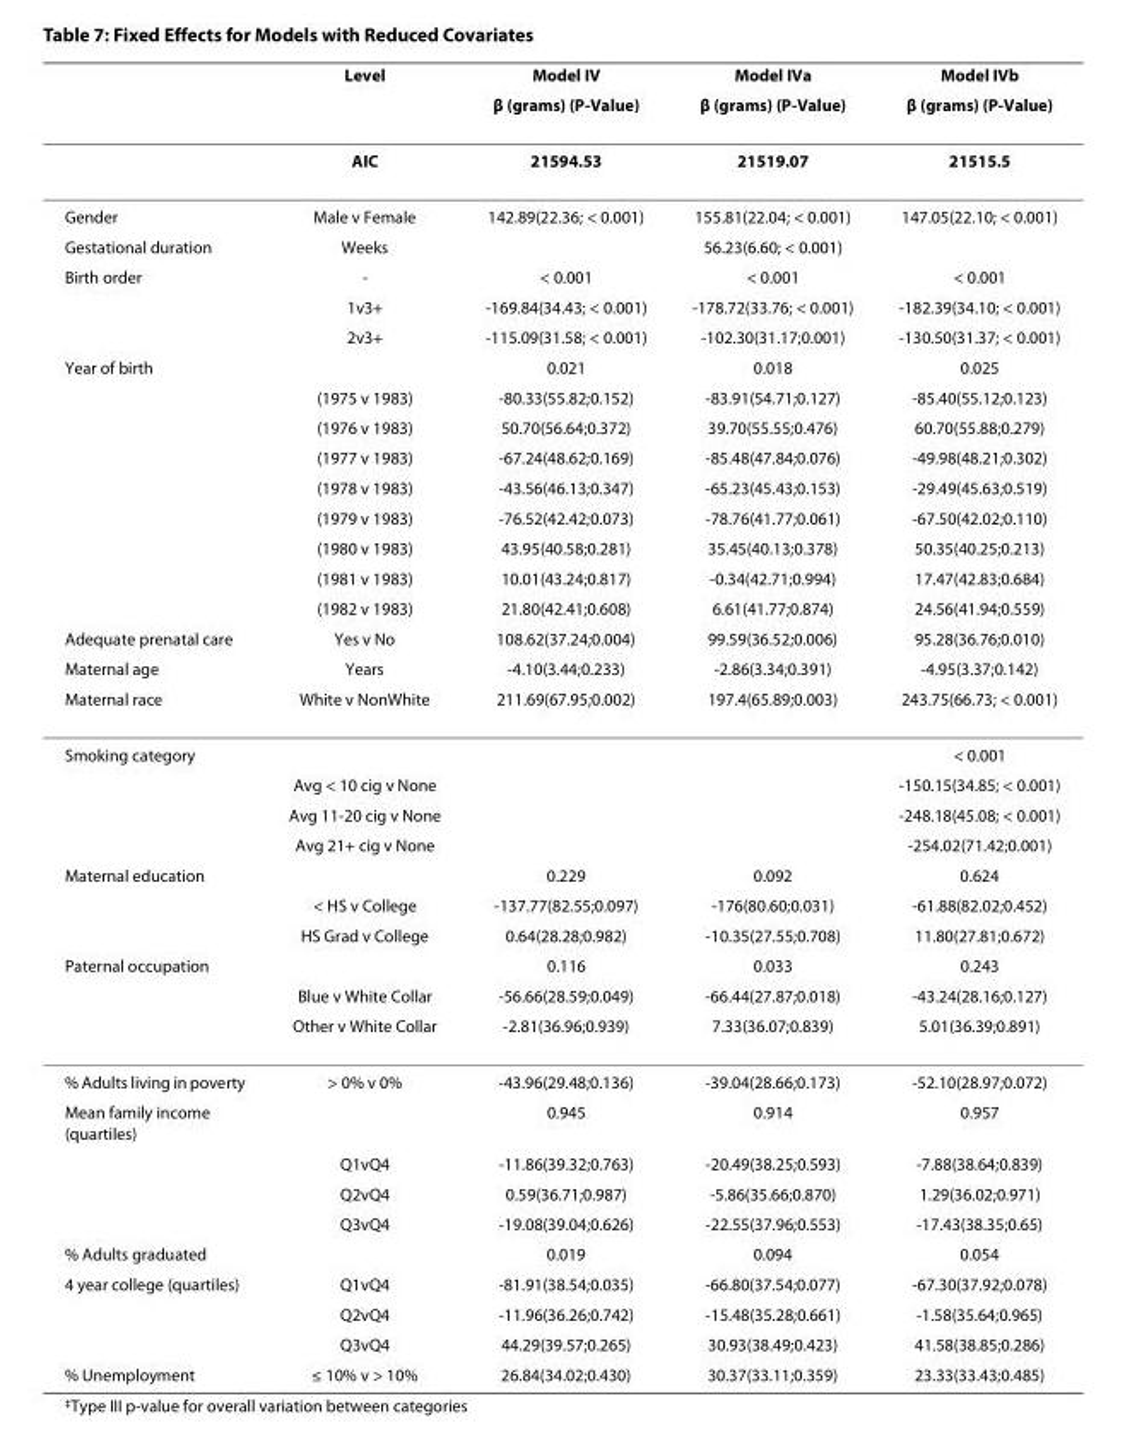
<table><thead><tr><td rowspan="2"></td><td rowspan="2">Level</td><td rowspan="2">Model IV β (grams) (P-Value)</td><td rowspan="2">Model IVa β (grams) (P-Value)</td><td rowspan="2">Model IVb β (grams) (P-Value)</td></tr><tr></tr></thead><tbody><tr><td></td><td>AIC</td><td>21594.53</td><td>21519.07</td><td>21515.5</td></tr><tr><td>Gender</td><td>Male v Female</td><td>142.89(22.36; &lt; 0.001)</td><td>155.81(22.04; &lt; 0.001)</td><td>147.05(22.10; &lt; 0.001)</td></tr><tr><td>Gestational duration</td><td>Weeks</td><td></td><td>56.23(6.60; &lt; 0.001)</td><td></td></tr><tr><td rowspan="3">Birth order</td><td>-</td><td>&lt; 0.001</td><td>&lt; 0.001</td><td>&lt; 0.001</td></tr><tr><td>1v3+</td><td>-169.84(34.43; &lt; 0.001)</td><td>-178.72(33.76; &lt; 0.001)</td><td>-182.39(34.10; &lt; 0.001)</td></tr><tr><td>2v3+</td><td>-115.09(31.58; &lt; 0.001)</td><td>-102.30(31.17;0.001)</td><td>-130.50(31.37; &lt; 0.001)</td></tr><tr><td rowspan="9">Year of birth</td><td></td><td>0.021</td><td>0.018</td><td>0.025</td></tr><tr><td>(1975 v 1983)</td><td>-80.33(55.82;0.152)</td><td>-83.91(54.71;0.127)</td><td>-85.40(55.12;0.123)</td></tr><tr><td>(1976 v 1983)</td><td>50.70(56.64;0.372)</td><td>39.70(55.55;0.476)</td><td>60.70(55.88;0.279)</td></tr><tr><td>(1977 v 1983)</td><td>-67.24(48.62;0.169)</td><td>-85.48(47.84;0.076)</td><td>-49.98(48.21;0.302)</td></tr><tr><td>(1978 v 1983)</td><td>-43.56(46.13;0.347)</td><td>-65.23(45.43;0.153)</td><td>-29.49(45.63;0.519)</td></tr><tr><td>(1979 v 1983)</td><td>-76.52(42.42;0.073)</td><td>-78.76(41.77;0.061)</td><td>-67.50(42.02;0.110)</td></tr><tr><td>(1980 v 1983)</td><td>43.95(40.58;0.281)</td><td>35.45(40.13;0.378)</td><td>50.35(40.25;0.213)</td></tr><tr><td>(1981 v 1983)</td><td>10.01(43.24;0.817)</td><td>-0.34(42.71;0.994)</td><td>17.47(42.83;0.684)</td></tr><tr><td>(1982 v 1983)</td><td>21.80(42.41;0.608)</td><td>6.61(41.77;0.874)</td><td>24.56(41.94;0.559)</td></tr><tr><td>Adequate prenatal care</td><td>Yes v No</td><td>108.62(37.24;0.004)</td><td>99.59(36.52;0.006)</td><td>95.28(36.76;0.010)</td></tr><tr><td>Maternal age</td><td>Years</td><td>-4.10(3.44;0.233)</td><td>-2.86(3.34;0.391)</td><td>-4.95(3.37;0.142)</td></tr><tr><td>Maternal race</td><td>White v NonWhite</td><td>211.69(67.95;0.002)</td><td>197.4(65.89;0.003)</td><td>243.75(66.73; &lt; 0.001)</td></tr><tr><td rowspan="4">Smoking category</td><td></td><td></td><td></td><td>&lt; 0.001</td></tr><tr><td>Avg &lt; 10 cig v None</td><td></td><td></td><td>-150.15(34.85; &lt; 0.001)</td></tr><tr><td>Avg 11-20 cig v None</td><td></td><td></td><td>-248.18(45.08; &lt; 0.001)</td></tr><tr><td>Avg 21+ cig v None</td><td></td><td></td><td>-254.02(71.42;0.001)</td></tr><tr><td rowspan="3">Maternal education</td><td></td><td>0.229</td><td>0.092</td><td>0.624</td></tr><tr><td>&lt; HS v College</td><td>-137.77(82.55;0.097)</td><td>-176(80.60;0.031)</td><td>-61.88(82.02;0.452)</td></tr><tr><td>HS Grad v College</td><td>0.64(28.28;0.982)</td><td>-10.35(27.55;0.708)</td><td>11.80(27.81;0.672)</td></tr><tr><td rowspan="3">Paternal occupation</td><td></td><td>0.116</td><td>0.033</td><td>0.243</td></tr><tr><td>Blue v White Collar</td><td>-56.66(28.59;0.049)</td><td>-66.44(27.87;0.018)</td><td>-43.24(28.16;0.127)</td></tr><tr><td>Other v White Collar</td><td>-2.81(36.96;0.939)</td><td>7.33(36.07;0.839)</td><td>5.01(36.39;0.891)</td></tr><tr><td>% Adults living in poverty</td><td>&gt; 0% v 0%</td><td>-43.96(29.48;0.136)</td><td>-39.04(28.66;0.173)</td><td>-52.10(28.97;0.072)</td></tr><tr><td rowspan="4">Mean family income (quartiles)</td><td></td><td>0.945</td><td>0.914</td><td>0.957</td></tr><tr><td>Q1vQ4</td><td>-11.86(39.32;0.763)</td><td>-20.49(38.25;0.593)</td><td>-7.88(38.64;0.839)</td></tr><tr><td>Q2vQ4</td><td>0.59(36.71;0.987)</td><td>-5.86(35.66;0.870)</td><td>1.29(36.02;0.971)</td></tr><tr><td>Q3vQ4</td><td>-19.08(39.04;0.626)</td><td>-22.55(37.96;0.553)</td><td>-17.43(38.35;0.65)</td></tr><tr><td>% Adults graduated</td><td></td><td>0.019</td><td>0.094</td><td>0.054</td></tr><tr><td rowspan="3">4 year college (quartiles)</td><td>Q1vQ4</td><td>-81.91(38.54;0.035)</td><td>-66.80(37.54;0.077)</td><td>-67.30(37.92;0.078)</td></tr><tr><td>Q2vQ4</td><td>-11.96(36.26;0.742)</td><td>-15.48(35.28;0.661)</td><td>-1.58(35.64;0.965)</td></tr><tr><td>Q3vQ4</td><td>44.29(39.57;0.265)</td><td>30.93(38.49;0.423)</td><td>41.58(38.85;0.286)</td></tr><tr><td>% Unemployment</td><td>≤ 10% v &gt; 10%</td><td>26.84(34.02;0.430)</td><td>30.37(33.11;0.359)</td><td>23.33(33.43;0.485)</td></tr></tbody></table>